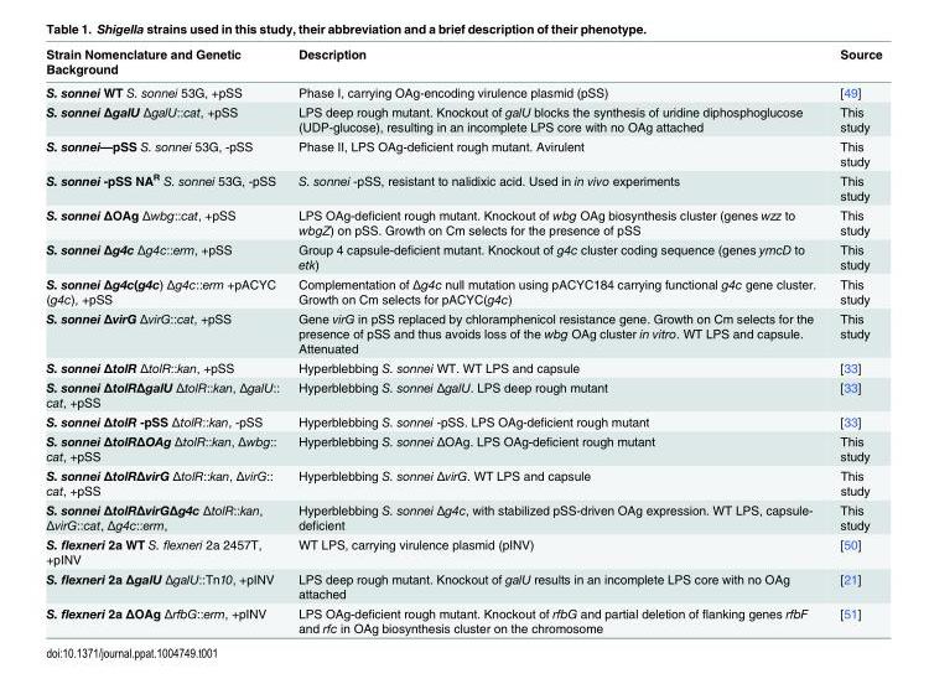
<table><thead><tr><td>Strain Nomenclature and Genetic Background</td><td>Description</td><td>Source</td></tr></thead><tbody><tr><td>S. sonnei WT S. sonnei 53G, +pSS</td><td>Phase I, carrying OAg-encoding virulence plasmid (pSS)</td><td>[49]</td></tr><tr><td>S. sonnei ΔgalU ΔgalU::cat, +pSS</td><td>LPS deep rough mutant. Knockout of galU blocks the synthesis of uridine diphosphoglucose (UDP-glucose), resulting in an incomplete LPS core with no OAg attached</td><td>This study</td></tr><tr><td>S. sonnei—pSS S. sonnei 53G, -pSS</td><td>Phase II, LPS OAg-deficient rough mutant. Avirulent</td><td>This study</td></tr><tr><td>S. sonnei -pSS NA<sup>R</sup> S. sonnei 53G, -pSS</td><td>S. sonnei -pSS, resistant to nalidixic acid. Used in in vivo experiments</td><td>This study</td></tr><tr><td>S. sonnei ΔOAg Δwbg::cat, +pSS</td><td>LPS OAg-deficient rough mutant. Knockout of wbg OAg biosynthesis cluster (genes wzz to wbgZ) on pSS. Growth on Cm selects for the presence of pSS</td><td>This study</td></tr><tr><td>S. sonnei Δg4c Δg4c::erm, +pSS</td><td>Group 4 capsule-deficient mutant. Knockout of g4c cluster coding sequence (genes ymcD to etk)</td><td>This study</td></tr><tr><td>S. sonnei Δg4c(g4c) Δg4c::erm +pACYC (g4c), +pSS</td><td>Complementation of Δg4c null mutation using pACYC184 carrying functional g4c gene cluster. Growth on Cm selects for pACYC(g4c)</td><td>This study</td></tr><tr><td>S. sonnei ΔvirG ΔvirG::cat, +pSS</td><td>Gene virG in pSS replaced by chloramphenicol resistance gene. Growth on Cm selects for the presence of pSS and thus avoids loss of the wbg OAg cluster in vitro. WT LPS and capsule. Attenuated</td><td>This study</td></tr><tr><td>S. sonnei ΔtolR ΔtolR::kan, +pSS</td><td>Hyperblebbing S. sonnei WT. WT LPS and capsule</td><td>[33]</td></tr><tr><td>S. sonnei ΔtolRΔgalU ΔtolR::kan, ΔgalU:: cat, +pSS</td><td>Hyperblebbing S. sonnei ΔgalU. LPS deep rough mutant</td><td>[33]</td></tr><tr><td>S. sonnei ΔtolR -pSS ΔtolR::kan, -pSS</td><td>Hyperblebbing S. sonnei -pSS. LPS OAg-deficient rough mutant</td><td>[33]</td></tr><tr><td>S. sonnei ΔtolRΔOAg ΔtolR::kan, Δwbg:: cat, +pSS</td><td>Hyperblebbing S. sonnei ΔOAg. LPS OAg-deficient rough mutant</td><td>This study</td></tr><tr><td>S. sonnei ΔtolRΔvirG ΔtolR::kan, ΔvirG:: cat, +pSS</td><td>Hyperblebbing S. sonnei ΔvirG. WT LPS and capsule</td><td>This study</td></tr><tr><td>S. sonnei ΔtolRΔvirGΔg4c ΔtolR::kan, ΔvirG::cat, Δg4c::erm,</td><td>Hyperblebbing S. sonnei Δg4c, with stabilized pSS-driven OAg expression. WT LPS, capsule- deficient</td><td>This study</td></tr><tr><td>S. flexneri 2a WT S. flexneri 2a 2457T, +pINV</td><td>WT LPS, carrying virulence plasmid (pINV)</td><td>[50]</td></tr><tr><td>S. flexneri 2a ΔgalU ΔgalU::Tn10, +pINV</td><td>LPS deep rough mutant. Knockout of galU results in an incomplete LPS core with no OAg attached</td><td>[21]</td></tr><tr><td>S. flexneri 2a ΔOAg ΔrfbG::erm, +pINV</td><td>LPS OAg-deficient rough mutant. Knockout of rfbG and partial deletion of flanking genes rfbF and rfc in OAg biosynthesis cluster on the chromosome</td><td>[51]</td></tr></tbody></table>